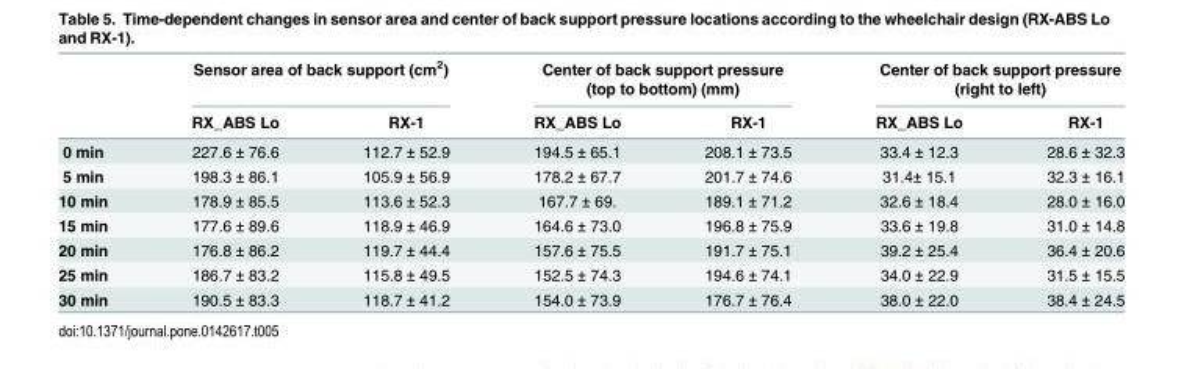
<table><thead><tr><td rowspan="2"></td><td colspan="2">Sensor area of back support (cm<sup>2</sup>)</td><td colspan="2">Center of back support pressure (top to bottom) (mm)</td><td colspan="2">Center of back support pressure (right to left)</td></tr><tr><td>RX_ABS Lo</td><td>RX-1</td><td>RX_ABS Lo</td><td>RX-1</td><td>RX_ABS Lo</td><td>RX-1</td></tr></thead><tbody><tr><td>0 min</td><td>227.6 ± 76.6</td><td>112.7 ± 52.9</td><td>194.5 ± 65.1</td><td>208.1 ± 73.5</td><td>33.4 ± 12.3</td><td>28.6 ± 32.3</td></tr><tr><td>5 min</td><td>198.3 ± 86.1</td><td>105.9 ± 56.9</td><td>178.2 ± 67.7</td><td>201.7 ± 74.6</td><td>31.4± 15.1</td><td>32.3 ± 16.1</td></tr><tr><td>10 min</td><td>178.9 ± 85.5</td><td>113.6 ± 52.3</td><td>167.7 ± 69.</td><td>189.1 ± 71.2</td><td>32.6 ± 18.4</td><td>28.0 ± 16.0</td></tr><tr><td>15 min</td><td>177.6 ± 89.6</td><td>118.9 ± 46.9</td><td>164.6 ± 73.0</td><td>196.8 ± 75.9</td><td>33.6 ± 19.8</td><td>31.0 ± 14.8</td></tr><tr><td>20 min</td><td>176.8 ± 86.2</td><td>119.7 ± 44.4</td><td>157.6 ± 75.5</td><td>191.7 ± 75.1</td><td>39.2 ± 25.4</td><td>36.4 ± 20.6</td></tr><tr><td>25 min</td><td>186.7 ± 83.2</td><td>115.8 ± 49.5</td><td>152.5 ± 74.3</td><td>194.6 ± 74.1</td><td>34.0 ± 22.9</td><td>31.5 ± 15.5</td></tr><tr><td>30 min</td><td>190.5 ± 83.3</td><td>118.7 ± 41.2</td><td>154.0 ± 73.9</td><td>176.7 ± 76.4</td><td>38.0 ± 22.0</td><td>38.4 ± 24.5</td></tr></tbody></table>